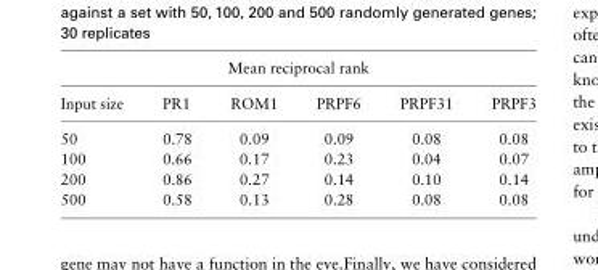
<table><thead><tr><td colspan="6">Mean reciprocal rank</td></tr><tr><td>Input size</td><td>PR1</td><td>ROM1</td><td>PRPF6</td><td>PRPF31</td><td>PRPF3</td></tr></thead><tbody><tr><td>50</td><td>0.78</td><td>0.09</td><td>0.09</td><td>0.08</td><td>0.08</td></tr><tr><td>100</td><td>0.66</td><td>0.17</td><td>0.23</td><td>0.04</td><td>0.07</td></tr><tr><td>200</td><td>0.86</td><td>0.27</td><td>0.14</td><td>0.10</td><td>0.14</td></tr><tr><td>500</td><td>0.58</td><td>0.13</td><td>0.28</td><td>0.08</td><td>0.08</td></tr></tbody></table>